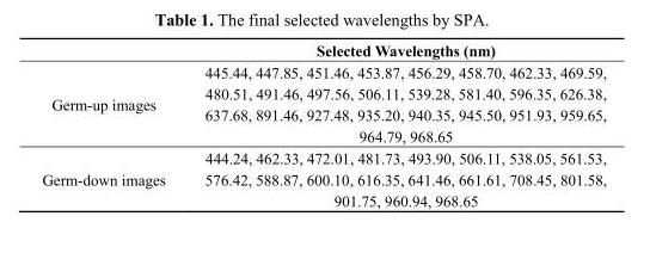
<table><thead><tr><td></td><td>Selected Wavelengths (nm)</td></tr></thead><tbody><tr><td>Germ-up images</td><td>445.44, 447.85, 451.46, 453.87, 456.29, 458.70, 462.33, 469.59, 480.51, 491.46, 497.56, 506.11, 539.28, 581.40, 596.35, 626.38, 637.68, 891.46, 927.48, 935.20, 940.35, 945.50, 951.93, 959.65, 964.79, 968.65</td></tr><tr><td>Germ-down images</td><td>444.24, 462.33, 472.01, 481.73, 493.90, 506.11, 538.05, 561.53, 576.42, 588.87, 600.10, 616.35, 641.46, 661.61, 708.45, 801.58, 901.75, 960.94, 968.65</td></tr></tbody></table>